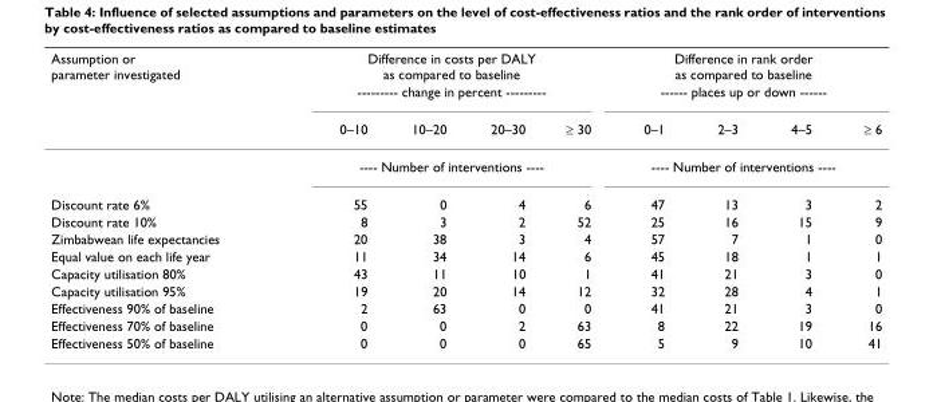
<table><thead><tr><td rowspan="3">Assumption or parameter investigated</td><td rowspan="2" colspan="4">Difference in costs per DALY as compared to baseline --------- change in percent ---------</td><td rowspan="2" colspan="4">Difference in rank order as compared to baseline ------ places up or down ------</td></tr><tr></tr><tr><td>0–10</td><td>10–20</td><td>20–30</td><td>≥ 30</td><td>0–1</td><td>2–3</td><td>4–5</td><td>≥ 6</td></tr></thead><tbody><tr><td></td><td colspan="4">---- Number of interventions ----</td><td colspan="4">---- Number of interventions ----</td></tr><tr><td>Discount rate 6%</td><td>55</td><td>0</td><td>4</td><td>6</td><td>47</td><td>13</td><td>3</td><td>2</td></tr><tr><td>Discount rate 10%</td><td>8</td><td>3</td><td>2</td><td>52</td><td>25</td><td>16</td><td>15</td><td>9</td></tr><tr><td>Zimbabwean life expectancies</td><td>20</td><td>38</td><td>3</td><td>4</td><td>57</td><td>7</td><td>1</td><td>0</td></tr><tr><td>Equal value on each life year</td><td>11</td><td>34</td><td>14</td><td>6</td><td>45</td><td>18</td><td>1</td><td>1</td></tr><tr><td>Capacity utilisation 80%</td><td>43</td><td>11</td><td>10</td><td>1</td><td>41</td><td>21</td><td>3</td><td>0</td></tr><tr><td>Capacity utilisation 95%</td><td>19</td><td>20</td><td>14</td><td>12</td><td>32</td><td>28</td><td>4</td><td>1</td></tr><tr><td>Effectiveness 90% of baseline</td><td>2</td><td>63</td><td>0</td><td>0</td><td>41</td><td>21</td><td>3</td><td>0</td></tr><tr><td>Effectiveness 70% of baseline</td><td>0</td><td>0</td><td>2</td><td>63</td><td>8</td><td>22</td><td>19</td><td>16</td></tr><tr><td>Effectiveness 50% of baseline</td><td>0</td><td>0</td><td>0</td><td>65</td><td>5</td><td>9</td><td>10</td><td>41</td></tr></tbody></table>